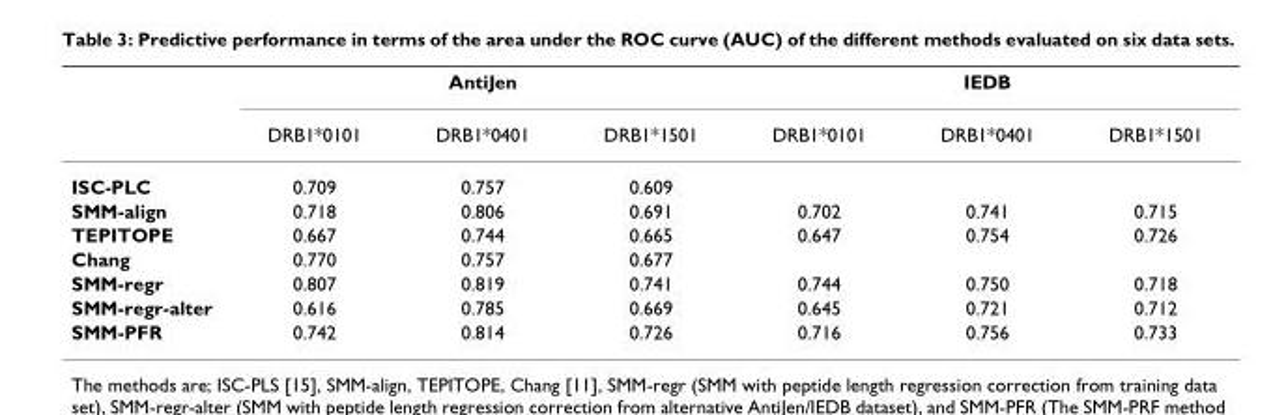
<table><thead><tr><td rowspan="2"></td><td colspan="3">AntiJen</td><td colspan="3">IEDB</td></tr><tr><td>DRB1*0101</td><td>DRB1*0401</td><td>DRB1*1501</td><td>DRB1*0101</td><td>DRB1*0401</td><td>DRB1*1501</td></tr></thead><tbody><tr><td>ISC-PLC</td><td>0.709</td><td>0.757</td><td>0.609</td><td></td><td></td><td></td></tr><tr><td>SMM-align</td><td>0.718</td><td>0.806</td><td>0.691</td><td>0.702</td><td>0.741</td><td>0.715</td></tr><tr><td>TEPITOPE</td><td>0.667</td><td>0.744</td><td>0.665</td><td>0.647</td><td>0.754</td><td>0.726</td></tr><tr><td>Chang</td><td>0.770</td><td>0.757</td><td>0.677</td><td></td><td></td><td></td></tr><tr><td>SMM-regr</td><td>0.807</td><td>0.819</td><td>0.741</td><td>0.744</td><td>0.750</td><td>0.718</td></tr><tr><td>SMM-regr-alter</td><td>0.616</td><td>0.785</td><td>0.669</td><td>0.645</td><td>0.721</td><td>0.712</td></tr><tr><td>SMM-PFR</td><td>0.742</td><td>0.814</td><td>0.726</td><td>0.716</td><td>0.756</td><td>0.733</td></tr></tbody></table>